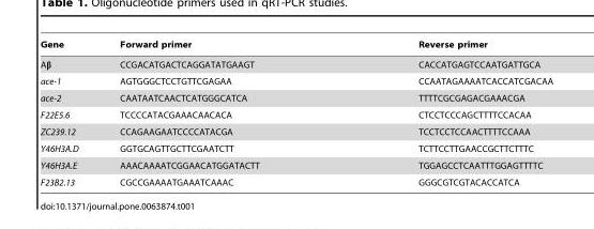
<table><thead><tr><td>Gene</td><td>Forward primer</td><td>Reverse primer</td></tr></thead><tbody><tr><td>Aβ</td><td>CCGACATGACTCAGGATATGAAGT</td><td>CACCATGAGTCCAATGATTGCA</td></tr><tr><td>ace-1</td><td>AGTGGGCTCCTGTTCGAGAA</td><td>CCAATAGAAAATCACCATCGACAA</td></tr><tr><td>ace-2</td><td>CAATAATCAACTCATGGGCATCA</td><td>TTTTCGCGAGACGAAACGA</td></tr><tr><td>F22E5.6</td><td>TCCCCATACGAAACAACACA</td><td>CTCCTCCCAGCTTTTCCACAA</td></tr><tr><td>ZC239.12</td><td>CCAGAAGAATCCCCATACGA</td><td>TCCTCCTCCAACTTTTCCAAA</td></tr><tr><td>Y46H3A.D</td><td>GGTGCAGTTGCTTCGAATCTT</td><td>TCTTCCTTGAACCGCTTCTTTC</td></tr><tr><td>Y46H3A.E</td><td>AAACAAAATCGGAACATGGATACTT</td><td>TGGAGCCTCAATTTGGAGTTTTC</td></tr><tr><td>F23B2.13</td><td>CGCCGAAAATGAAATCAAAC</td><td>GGGCGTCGTACACCATCA</td></tr></tbody></table>